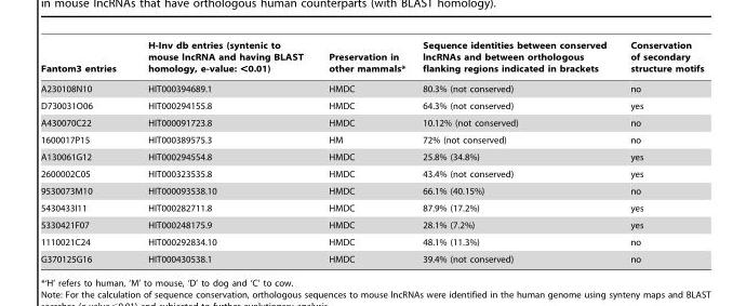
<table><thead><tr><td>Fantom3 entries</td><td>H-Inv db entries (syntenic to mouse lncRNA and having BLAST homology, e-value: &lt;0.01)</td><td>Preservation in other mammals*</td><td>Sequence identities between conserved lncRNAs and between orthologous flanking regions indicated in brackets</td><td>Conservation of secondary structure motifs</td></tr></thead><tbody><tr><td>A230108N10</td><td>HIT000394689.1</td><td>HMDC</td><td>80.3% (not conserved)</td><td>no</td></tr><tr><td>D730031O06</td><td>HIT000294155.8</td><td>HMDC</td><td>64.3% (not conserved)</td><td>yes</td></tr><tr><td>A430070C22</td><td>HIT000091723.8</td><td>HMDC</td><td>10.12% (not conserved)</td><td>no</td></tr><tr><td>1600017P15</td><td>HIT000389575.3</td><td>HM</td><td>72% (not conserved)</td><td>no</td></tr><tr><td>A130061G12</td><td>HIT000294554.8</td><td>HMDC</td><td>25.8% (34.8%)</td><td>yes</td></tr><tr><td>2600002C05</td><td>HIT000323535.8</td><td>HMDC</td><td>43.4% (not conserved)</td><td>yes</td></tr><tr><td>9530073M10</td><td>HIT000093538.10</td><td>HMDC</td><td>66.1% (40.15%)</td><td>no</td></tr><tr><td>5430433I11</td><td>HIT000282711.8</td><td>HMDC</td><td>87.9% (17.2%)</td><td>yes</td></tr><tr><td>5330421F07</td><td>HIT000248175.9</td><td>HMDC</td><td>28.1% (7.2%)</td><td>yes</td></tr><tr><td>1110021C24</td><td>HIT000292834.10</td><td>HMDC</td><td>48.1% (11.3%)</td><td>no</td></tr><tr><td>G370125G16</td><td>HIT000430538.1</td><td>HMDC</td><td>39.4% (not conserved)</td><td>no</td></tr></tbody></table>